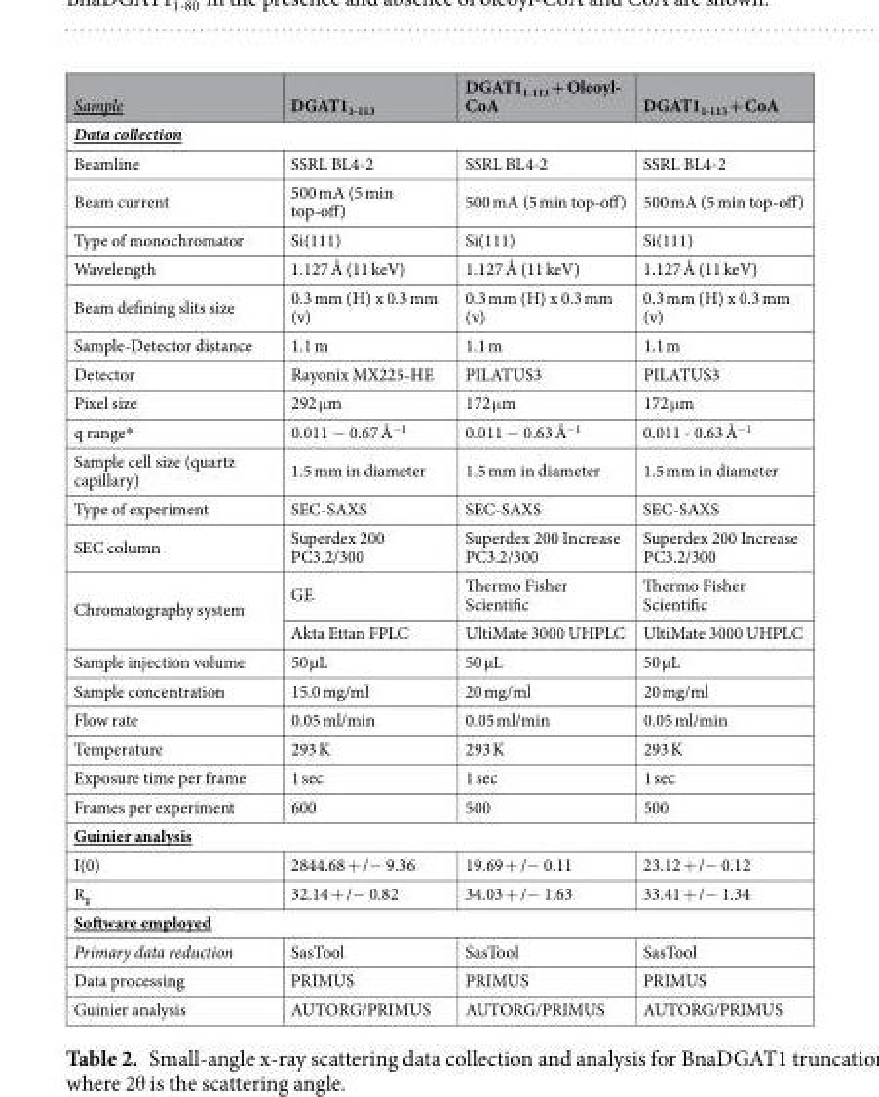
<table><thead><tr><td>Sample</td><td>DGAT1<sub>1-113</sub></td><td>DGAT1<sub>1-113</sub> + Oleoyl- CoA</td><td>DGAT1<sub>1-113</sub> + CoA</td></tr></thead><tbody><tr><td colspan="4">Data collection</td></tr><tr><td>Beamline</td><td>SSRL BL4-2</td><td>SSRL BL4-2</td><td>SSRL BL4-2</td></tr><tr><td>Beam current</td><td>500 mA (5 min top-off)</td><td>500 mA (5 min top-off)</td><td>500 mA (5 min top-off)</td></tr><tr><td>Type of monochromator</td><td>Si(111)</td><td>Si(111)</td><td>Si(111)</td></tr><tr><td>Wavelength</td><td>1.127 Å (11 keV)</td><td>1.127 Å (11 keV)</td><td>1.127 Å (11 keV)</td></tr><tr><td>Beam defining slits size</td><td>0.3 mm (H) x 0.3 mm (v)</td><td>0.3 mm (H) x 0.3 mm (v)</td><td>0.3 mm (H) x 0.3 mm (v)</td></tr><tr><td>Sample-Detector distance</td><td>1.1 m</td><td>1.1 m</td><td>1.1 m</td></tr><tr><td>Detector</td><td>Rayonix MX225-HE</td><td>PILATUS3</td><td>PILATUS3</td></tr><tr><td>Pixel size</td><td>292 μm</td><td>172 μm</td><td>172 μm</td></tr><tr><td>q range*</td><td>0.011 − 0.67 Å<sup>−1</sup></td><td>0.011 − 0.63 Å<sup>−1</sup></td><td>0.011 - 0.63 Å<sup>−1</sup></td></tr><tr><td>Sample cell size (quartz capillary)</td><td>1.5 mm in diameter</td><td>1.5 mm in diameter</td><td>1.5 mm in diameter</td></tr><tr><td>Type of experiment</td><td>SEC-SAXS</td><td>SEC-SAXS</td><td>SEC-SAXS</td></tr><tr><td>SEC column</td><td>Superdex 200 PC3.2/300</td><td>Superdex 200 Increase PC3.2/300</td><td>Superdex 200 Increase PC3.2/300</td></tr><tr><td rowspan="2">Chromatography system</td><td>GE</td><td>Thermo Fisher Scientific</td><td>Thermo Fisher Scientific</td></tr><tr><td>Akta Ettan FPLC</td><td>UltiMate 3000 UHPLC</td><td>UltiMate 3000 UHPLC</td></tr><tr><td>Sample injection volume</td><td>50 µL</td><td>50 µL</td><td>50 µL</td></tr><tr><td>Sample concentration</td><td>15.0 mg/ml</td><td>20 mg/ml</td><td>20 mg/ml</td></tr><tr><td>Flow rate</td><td>0.05 ml/min</td><td>0.05 ml/min</td><td>0.05 ml/min</td></tr><tr><td>Temperature</td><td>293 K</td><td>293 K</td><td>293 K</td></tr><tr><td>Exposure time per frame</td><td>1 sec</td><td>1 sec</td><td>1 sec</td></tr><tr><td>Frames per experiment</td><td>600</td><td>500</td><td>500</td></tr><tr><td colspan="4">Guinier analysis</td></tr><tr><td>I(0)</td><td>2844.68 + /− 9.36</td><td>19.69 + /− 0.11</td><td>23.12 + /− 0.12</td></tr><tr><td>R<sub>g</sub></td><td>32.14 + /− 0.82</td><td>34.03 + /− 1.63</td><td>33.41 + /− 1.34</td></tr><tr><td colspan="4">Software employed</td></tr><tr><td>Primary data reduction</td><td>SasTool</td><td>SasTool</td><td>SasTool</td></tr><tr><td>Data processing</td><td>PRIMUS</td><td>PRIMUS</td><td>PRIMUS</td></tr><tr><td>Guinier analysis</td><td>AUTORG/PRIMUS</td><td>AUTORG/PRIMUS</td><td>AUTORG/PRIMUS</td></tr></tbody></table>